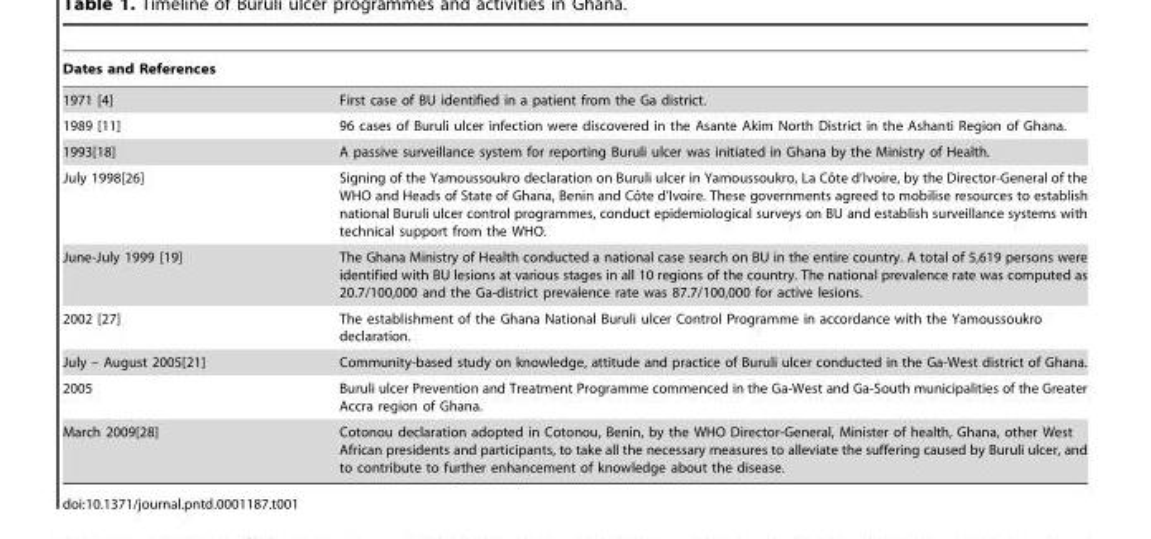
<table><thead><tr><td colspan="2">Dates and References</td></tr><tr><td>1971 [4]</td><td>First case of BU identified in a patient from the Ga district.</td></tr></thead><tbody><tr><td>1989 [11]</td><td>96 cases of Buruli ulcer infection were discovered in the Asante Akim North District in the Ashanti Region of Ghana.</td></tr><tr><td>1993[18]</td><td>A passive surveillance system for reporting Buruli ulcer was initiated in Ghana by the Ministry of Health.</td></tr><tr><td>July 1998[26]</td><td>Signing of the Yamoussoukro declaration on Buruli ulcer in Yamoussoukro, La Coˆte d’Ivoire, by the Director-General of the WHO and Heads of State of Ghana, Benin and Coˆte d’Ivoire. These governments agreed to mobilise resources to establish national Buruli ulcer control programmes, conduct epidemiological surveys on BU and establish surveillance systems with technical support from the WHO.</td></tr><tr><td>June-July 1999 [19]</td><td>The Ghana Ministry of Health conducted a national case search on BU in the entire country. A total of 5,619 persons were identified with BU lesions at various stages in all 10 regions of the country. The national prevalence rate was computed as 20.7/100,000 and the Ga-district prevalence rate was 87.7/100,000 for active lesions.</td></tr><tr><td>2002 [27]</td><td>The establishment of the Ghana National Buruli ulcer Control Programme in accordance with the Yamoussoukro declaration.</td></tr><tr><td>July – August 2005[21]</td><td>Community-based study on knowledge, attitude and practice of Buruli ulcer conducted in the Ga-West district of Ghana.</td></tr><tr><td>2005</td><td>Buruli ulcer Prevention and Treatment Programme commenced in the Ga-West and Ga-South municipalities of the Greater Accra region of Ghana.</td></tr><tr><td>March 2009[28]</td><td>Cotonou declaration adopted in Cotonou, Benin, by the WHO Director-General, Minister of health, Ghana, other West African presidents and participants, to take all the necessary measures to alleviate the suffering caused by Buruli ulcer, and to contribute to further enhancement of knowledge about the disease.</td></tr></tbody></table>